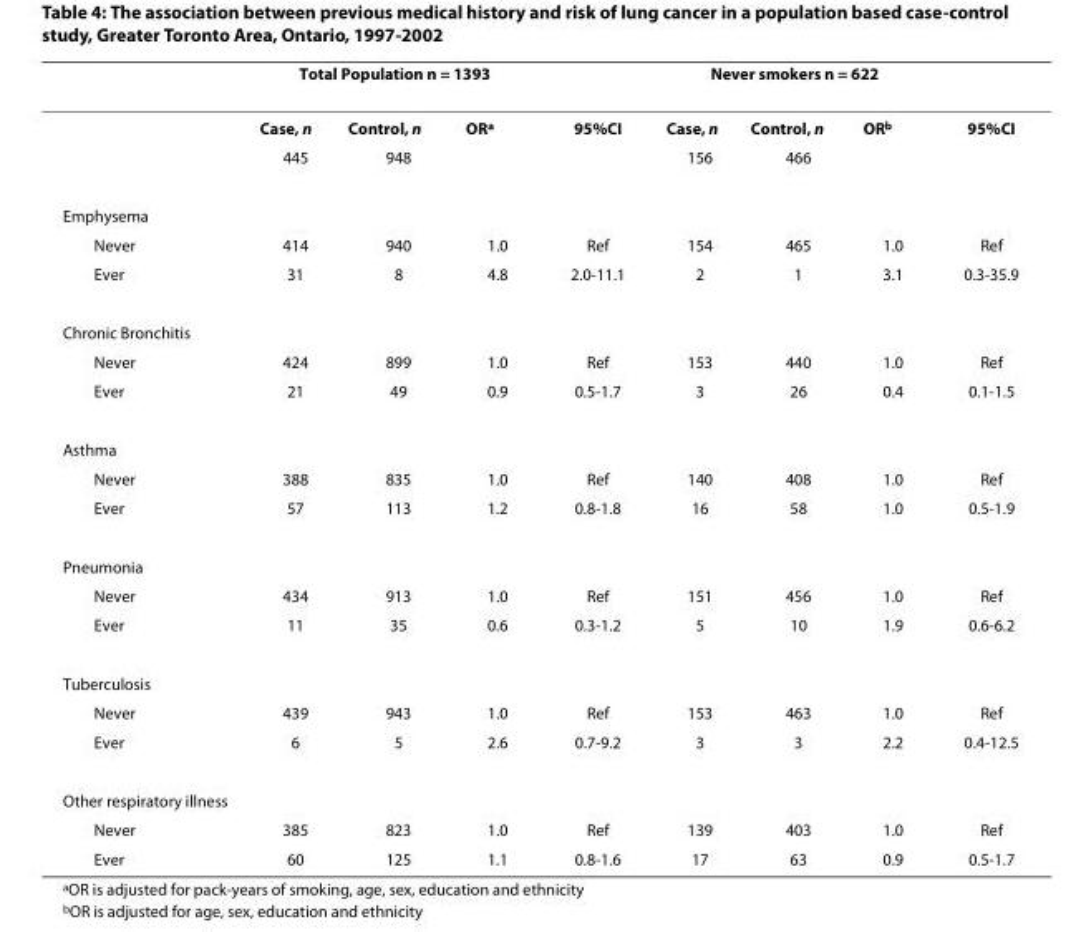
<table><thead><tr><td rowspan="2"></td><td colspan="3">Total Population n = 1393</td><td rowspan="2">95%CI</td><td colspan="3">Never smokers n = 622</td><td rowspan="2">95%CI</td></tr><tr><td>Case, n</td><td>Control, n</td><td>OR<sup>a</sup></td><td>Case, n</td><td>Control, n</td><td>OR<sup>b</sup></td></tr></thead><tbody><tr><td></td><td>445</td><td>948</td><td></td><td></td><td>156</td><td>466</td><td></td><td></td></tr><tr><td colspan="9">Emphysema</td></tr><tr><td>Never</td><td>414</td><td>940</td><td>1.0</td><td>Ref</td><td>154</td><td>465</td><td>1.0</td><td>Ref</td></tr><tr><td>Ever</td><td>31</td><td>8</td><td>4.8</td><td>2.0-11.1</td><td>2</td><td>1</td><td>3.1</td><td>0.3-35.9</td></tr><tr><td colspan="9">Chronic Bronchitis</td></tr><tr><td>Never</td><td>424</td><td>899</td><td>1.0</td><td>Ref</td><td>153</td><td>440</td><td>1.0</td><td>Ref</td></tr><tr><td>Ever</td><td>21</td><td>49</td><td>0.9</td><td>0.5-1.7</td><td>3</td><td>26</td><td>0.4</td><td>0.1-1.5</td></tr><tr><td colspan="9">Asthma</td></tr><tr><td>Never</td><td>388</td><td>835</td><td>1.0</td><td>Ref</td><td>140</td><td>408</td><td>1.0</td><td>Ref</td></tr><tr><td>Ever</td><td>57</td><td>113</td><td>1.2</td><td>0.8-1.8</td><td>16</td><td>58</td><td>1.0</td><td>0.5-1.9</td></tr><tr><td colspan="9">Pneumonia</td></tr><tr><td>Never</td><td>434</td><td>913</td><td>1.0</td><td>Ref</td><td>151</td><td>456</td><td>1.0</td><td>Ref</td></tr><tr><td>Ever</td><td>11</td><td>35</td><td>0.6</td><td>0.3-1.2</td><td>5</td><td>10</td><td>1.9</td><td>0.6-6.2</td></tr><tr><td colspan="9">Tuberculosis</td></tr><tr><td>Never</td><td>439</td><td>943</td><td>1.0</td><td>Ref</td><td>153</td><td>463</td><td>1.0</td><td>Ref</td></tr><tr><td>Ever</td><td>6</td><td>5</td><td>2.6</td><td>0.7-9.2</td><td>3</td><td>3</td><td>2.2</td><td>0.4-12.5</td></tr><tr><td colspan="9">Other respiratory illness</td></tr><tr><td>Never</td><td>385</td><td>823</td><td>1.0</td><td>Ref</td><td>139</td><td>403</td><td>1.0</td><td>Ref</td></tr><tr><td>Ever</td><td>60</td><td>125</td><td>1.1</td><td>0.8-1.6</td><td>17</td><td>63</td><td>0.9</td><td>0.5-1.7</td></tr></tbody></table>